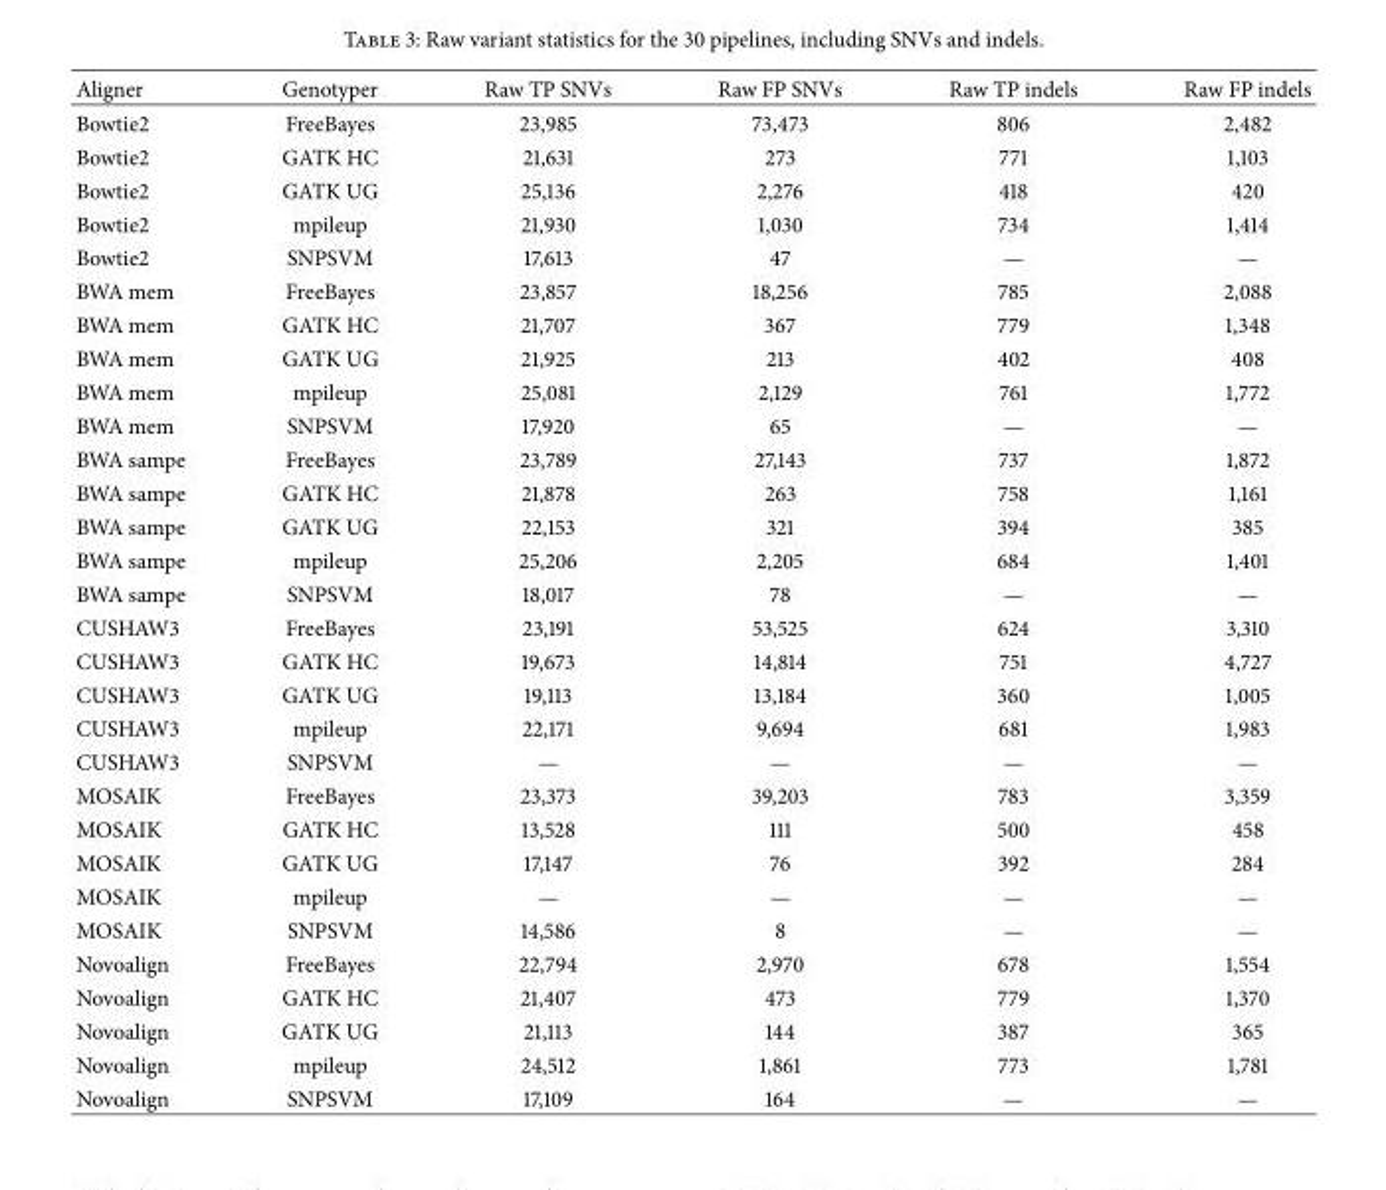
<table><thead><tr><td>Aligner</td><td>Genotyper</td><td>Raw TP SNVs</td><td>Raw FP SNVs</td><td>Raw TP indels</td><td>Raw FP indels</td></tr></thead><tbody><tr><td>Bowtie2</td><td>FreeBayes</td><td>23,985</td><td>73,473</td><td>806</td><td>2,482</td></tr><tr><td>Bowtie2</td><td>GATK HC</td><td>21,631</td><td>273</td><td>771</td><td>1,103</td></tr><tr><td>Bowtie2</td><td>GATK UG</td><td>25,136</td><td>2,276</td><td>418</td><td>420</td></tr><tr><td>Bowtie2</td><td>mpileup</td><td>21,930</td><td>1,030</td><td>734</td><td>1,414</td></tr><tr><td>Bowtie2</td><td>SNPSVM</td><td>17,613</td><td>47</td><td>—</td><td>—</td></tr><tr><td>BWA mem</td><td>FreeBayes</td><td>23,857</td><td>18,256</td><td>785</td><td>2,088</td></tr><tr><td>BWA mem</td><td>GATK HC</td><td>21,707</td><td>367</td><td>779</td><td>1,348</td></tr><tr><td>BWA mem</td><td>GATK UG</td><td>21,925</td><td>213</td><td>402</td><td>408</td></tr><tr><td>BWA mem</td><td>mpileup</td><td>25,081</td><td>2,129</td><td>761</td><td>1,772</td></tr><tr><td>BWA mem</td><td>SNPSVM</td><td>17,920</td><td>65</td><td>—</td><td>—</td></tr><tr><td>BWA sampe</td><td>FreeBayes</td><td>23,789</td><td>27,143</td><td>737</td><td>1,872</td></tr><tr><td>BWA sampe</td><td>GATK HC</td><td>21,878</td><td>263</td><td>758</td><td>1,161</td></tr><tr><td>BWA sampe</td><td>GATK UG</td><td>22,153</td><td>321</td><td>394</td><td>385</td></tr><tr><td>BWA sampe</td><td>mpileup</td><td>25,206</td><td>2,205</td><td>684</td><td>1,401</td></tr><tr><td>BWA sampe</td><td>SNPSVM</td><td>18,017</td><td>78</td><td>—</td><td>—</td></tr><tr><td>CUSHAW3</td><td>FreeBayes</td><td>23,191</td><td>53,525</td><td>624</td><td>3,310</td></tr><tr><td>CUSHAW3</td><td>GATK HC</td><td>19,673</td><td>14,814</td><td>751</td><td>4,727</td></tr><tr><td>CUSHAW3</td><td>GATK UG</td><td>19,113</td><td>13,184</td><td>360</td><td>1,005</td></tr><tr><td>CUSHAW3</td><td>mpileup</td><td>22,171</td><td>9,694</td><td>681</td><td>1,983</td></tr><tr><td>CUSHAW3</td><td>SNPSVM</td><td>—</td><td>—</td><td>—</td><td>—</td></tr><tr><td>MOSAIK</td><td>FreeBayes</td><td>23,373</td><td>39,203</td><td>783</td><td>3,359</td></tr><tr><td>MOSAIK</td><td>GATK HC</td><td>13,528</td><td>111</td><td>500</td><td>458</td></tr><tr><td>MOSAIK</td><td>GATK UG</td><td>17,147</td><td>76</td><td>392</td><td>284</td></tr><tr><td>MOSAIK</td><td>mpileup</td><td>—</td><td>—</td><td>—</td><td>—</td></tr><tr><td>MOSAIK</td><td>SNPSVM</td><td>14,586</td><td>8</td><td>—</td><td>—</td></tr><tr><td>Novoalign</td><td>FreeBayes</td><td>22,794</td><td>2,970</td><td>678</td><td>1,554</td></tr><tr><td>Novoalign</td><td>GATK HC</td><td>21,407</td><td>473</td><td>779</td><td>1,370</td></tr><tr><td>Novoalign</td><td>GATK UG</td><td>21,113</td><td>144</td><td>387</td><td>365</td></tr><tr><td>Novoalign</td><td>mpileup</td><td>24,512</td><td>1,861</td><td>773</td><td>1,781</td></tr><tr><td>Novoalign</td><td>SNPSVM</td><td>17,109</td><td>164</td><td>—</td><td>—</td></tr></tbody></table>